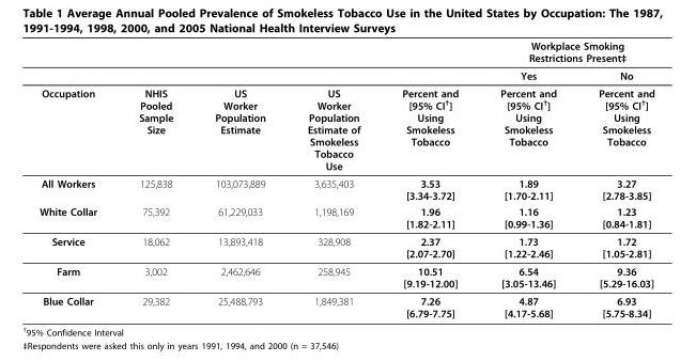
<table><thead><tr><td rowspan="2"></td><td rowspan="2"></td><td rowspan="2"></td><td rowspan="2"></td><td rowspan="2"></td><td colspan="2">Workplace Smoking Restrictions Present‡</td></tr><tr><td>Yes</td><td>No</td></tr></thead><tbody><tr><td>Occupation</td><td>NHIS Pooled Sample Size</td><td>US Worker Population Estimate</td><td>US Worker Population Estimate of Smokeless Tobacco Use</td><td>Percent and [95% CI<sup>†</sup>] Using Smokeless Tobacco</td><td>Percent and [95% CI<sup>†</sup>] Using Smokeless Tobacco</td><td>Percent and [95% CI<sup>†</sup>] Using Smokeless Tobacco</td></tr><tr><td>All Workers</td><td>125,838</td><td>103,073,889</td><td>3,635,403</td><td>3.53 [3.34-3.72]</td><td>1.89 [1.70-2.11]</td><td>3.27 [2.78-3.85]</td></tr><tr><td>White Collar</td><td>75,392</td><td>61,229,033</td><td>1,198,169</td><td>1.96 [1.82-2.11]</td><td>1.16 [0.99-1.36]</td><td>1.23 [0.84-1.81]</td></tr><tr><td>Service</td><td>18,062</td><td>13,893,418</td><td>328,908</td><td>2.37 [2.07-2.70]</td><td>1.73 [1.22-2.46]</td><td>1.72 [1.05-2.81]</td></tr><tr><td>Farm</td><td>3,002</td><td>2,462,646</td><td>258,945</td><td>10.51 [9.19-12.00]</td><td>6.54 [3.05-13.46]</td><td>9.36 [5.29-16.03]</td></tr><tr><td>Blue Collar</td><td>29,382</td><td>25,488,793</td><td>1,849,381</td><td>7.26 [6.79-7.75]</td><td>4.87 [4.17-5.68]</td><td>6.93 [5.75-8.34]</td></tr></tbody></table>